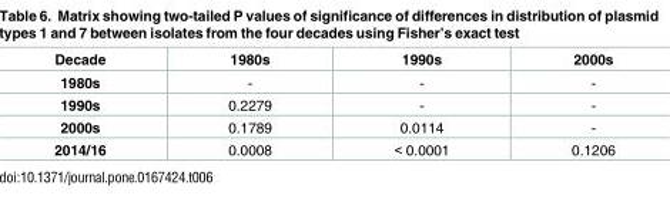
<table><thead><tr><td>Decade</td><td>1980s</td><td>1990s</td><td>2000s</td></tr></thead><tbody><tr><td>1980s</td><td>-</td><td>-</td><td>-</td></tr><tr><td>1990s</td><td>0.2279</td><td>-</td><td>-</td></tr><tr><td>2000s</td><td>0.1789</td><td>0.0114</td><td>-</td></tr><tr><td>2014/16</td><td>0.0008</td><td>&lt; 0.0001</td><td>0.1206</td></tr></tbody></table>